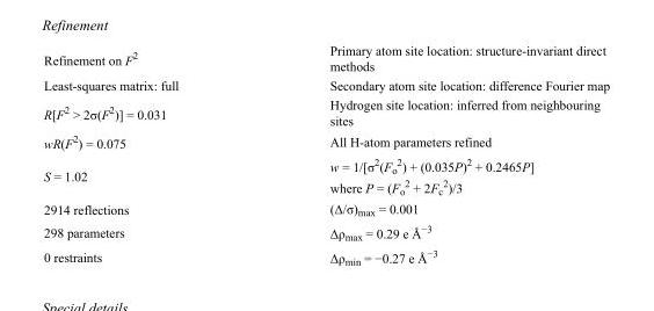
<table><tbody><tr><td>Refinement on F<sup>2</sup></td><td>Primary atom site location: structure-invariant direct methods</td></tr><tr><td>Least-squares matrix: full</td><td>Secondary atom site location: difference Fourier map</td></tr><tr><td>R[F<sup>2</sup> &gt; 2σ(F<sup>2</sup>)] = 0.031</td><td>Hydrogen site location: inferred from neighbouring sites</td></tr><tr><td>wR(F<sup>2</sup>) = 0.075</td><td>All H-atom parameters refined</td></tr><tr><td>S = 1.02</td><td>w = 1/[σ<sup>2</sup>(F<sub>o</sub> <sup>2</sup>) + (0.035P)<sup>2</sup> + 0.2465P] where P = (F<sub>o</sub> <sup>2</sup> + 2F<sub>c</sub> <sup>2</sup>)/3</td></tr><tr><td>2914 reflections</td><td>(Δ/σ)<sub>max</sub> = 0.001</td></tr><tr><td>298 parameters</td><td>Δρ<sub>max</sub> = 0.29 e Å<sup>−3</sup></td></tr><tr><td>0 restraints</td><td>Δρ<sub>min</sub> = −0.27 e Å<sup>−3</sup></td></tr></tbody></table>